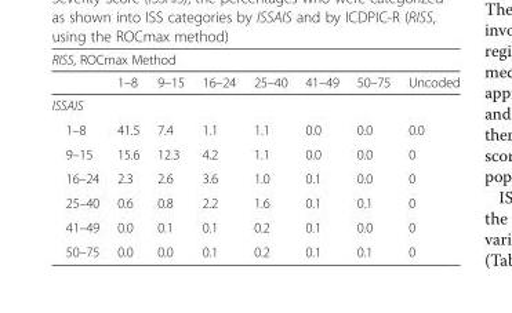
<table><thead><tr><td colspan="8">RISS, ROCmax Method</td></tr><tr><td></td><td>1–8</td><td>9–15</td><td>16–24</td><td>25–40</td><td>41–49</td><td>50–75</td><td>Uncoded</td></tr></thead><tbody><tr><td colspan="8">ISSAIS</td></tr><tr><td>1–8</td><td>41.5</td><td>7.4</td><td>1.1</td><td>1.1</td><td>0.0</td><td>0.0</td><td>0.0</td></tr><tr><td>9–15</td><td>15.6</td><td>12.3</td><td>4.2</td><td>1.1</td><td>0.0</td><td>0.0</td><td>0</td></tr><tr><td>16–24</td><td>2.3</td><td>2.6</td><td>3.6</td><td>1.0</td><td>0.1</td><td>0.0</td><td>0</td></tr><tr><td>25–40</td><td>0.6</td><td>0.8</td><td>2.2</td><td>1.6</td><td>0.1</td><td>0.1</td><td>0</td></tr><tr><td>41–49</td><td>0.0</td><td>0.1</td><td>0.1</td><td>0.2</td><td>0.1</td><td>0.0</td><td>0</td></tr><tr><td>50–75</td><td>0.0</td><td>0.0</td><td>0.1</td><td>0.2</td><td>0.1</td><td>0.1</td><td>0</td></tr></tbody></table>